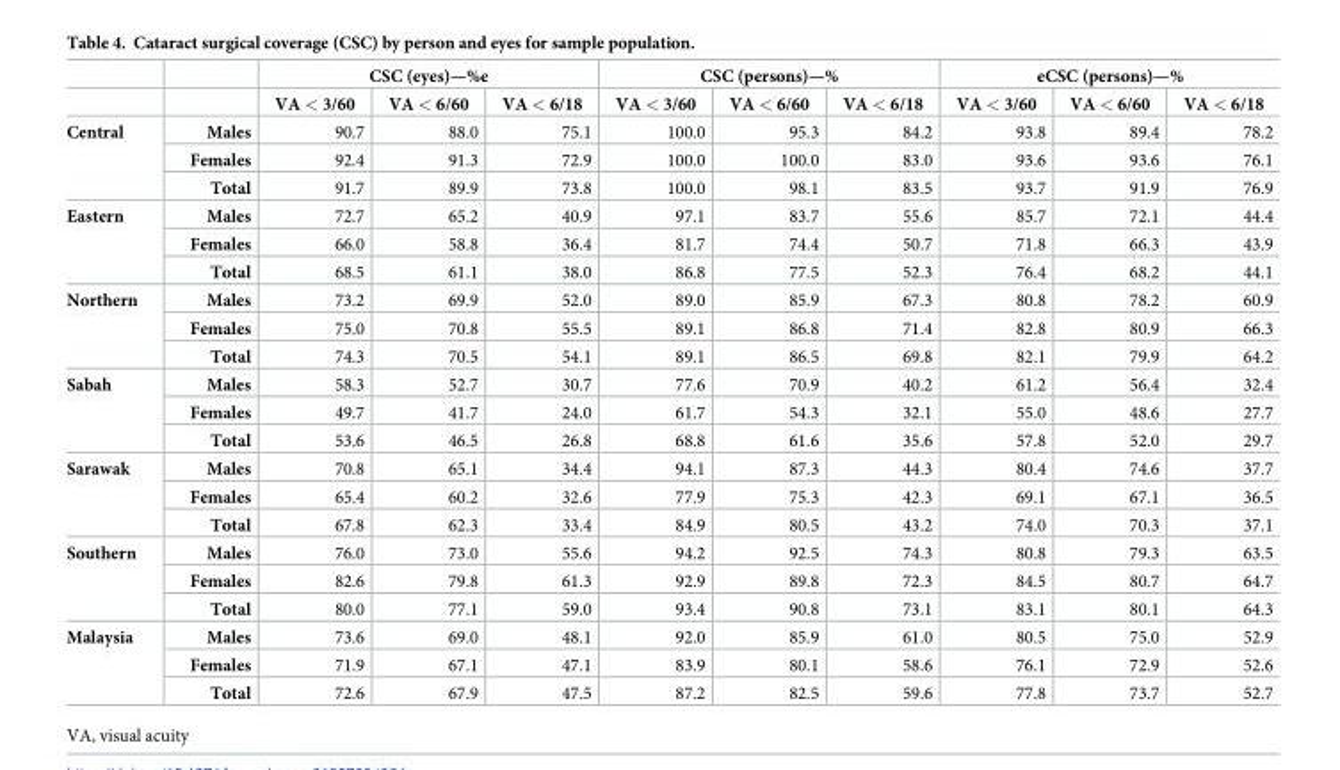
<table><thead><tr><td rowspan="2"></td><td rowspan="2"></td><td colspan="3">CSC (eyes)—%e</td><td colspan="3">CSC (persons)—%</td><td colspan="3">eCSC (persons)—%</td></tr><tr><td>VA &lt; 3/60</td><td>VA &lt; 6/60</td><td>VA &lt; 6/18</td><td>VA &lt; 3/60</td><td>VA &lt; 6/60</td><td>VA &lt; 6/18</td><td>VA &lt; 3/60</td><td>VA &lt; 6/60</td><td>VA &lt; 6/18</td></tr></thead><tbody><tr><td rowspan="3">Central</td><td>Males</td><td>90.7</td><td>88.0</td><td>75.1</td><td>100.0</td><td>95.3</td><td>84.2</td><td>93.8</td><td>89.4</td><td>78.2</td></tr><tr><td>Females</td><td>92.4</td><td>91.3</td><td>72.9</td><td>100.0</td><td>100.0</td><td>83.0</td><td>93.6</td><td>93.6</td><td>76.1</td></tr><tr><td>Total</td><td>91.7</td><td>89.9</td><td>73.8</td><td>100.0</td><td>98.1</td><td>83.5</td><td>93.7</td><td>91.9</td><td>76.9</td></tr><tr><td rowspan="3">Eastern</td><td>Males</td><td>72.7</td><td>65.2</td><td>40.9</td><td>97.1</td><td>83.7</td><td>55.6</td><td>85.7</td><td>72.1</td><td>44.4</td></tr><tr><td>Females</td><td>66.0</td><td>58.8</td><td>36.4</td><td>81.7</td><td>74.4</td><td>50.7</td><td>71.8</td><td>66.3</td><td>43.9</td></tr><tr><td>Total</td><td>68.5</td><td>61.1</td><td>38.0</td><td>86.8</td><td>77.5</td><td>52.3</td><td>76.4</td><td>68.2</td><td>44.1</td></tr><tr><td rowspan="3">Northern</td><td>Males</td><td>73.2</td><td>69.9</td><td>52.0</td><td>89.0</td><td>85.9</td><td>67.3</td><td>80.8</td><td>78.2</td><td>60.9</td></tr><tr><td>Females</td><td>75.0</td><td>70.8</td><td>55.5</td><td>89.1</td><td>86.8</td><td>71.4</td><td>82.8</td><td>80.9</td><td>66.3</td></tr><tr><td>Total</td><td>74.3</td><td>70.5</td><td>54.1</td><td>89.1</td><td>86.5</td><td>69.8</td><td>82.1</td><td>79.9</td><td>64.2</td></tr><tr><td rowspan="3">Sabah</td><td>Males</td><td>58.3</td><td>52.7</td><td>30.7</td><td>77.6</td><td>70.9</td><td>40.2</td><td>61.2</td><td>56.4</td><td>32.4</td></tr><tr><td>Females</td><td>49.7</td><td>41.7</td><td>24.0</td><td>61.7</td><td>54.3</td><td>32.1</td><td>55.0</td><td>48.6</td><td>27.7</td></tr><tr><td>Total</td><td>53.6</td><td>46.5</td><td>26.8</td><td>68.8</td><td>61.6</td><td>35.6</td><td>57.8</td><td>52.0</td><td>29.7</td></tr><tr><td rowspan="3">Sarawak</td><td>Males</td><td>70.8</td><td>65.1</td><td>34.4</td><td>94.1</td><td>87.3</td><td>44.3</td><td>80.4</td><td>74.6</td><td>37.7</td></tr><tr><td>Females</td><td>65.4</td><td>60.2</td><td>32.6</td><td>77.9</td><td>75.3</td><td>42.3</td><td>69.1</td><td>67.1</td><td>36.5</td></tr><tr><td>Total</td><td>67.8</td><td>62.3</td><td>33.4</td><td>84.9</td><td>80.5</td><td>43.2</td><td>74.0</td><td>70.3</td><td>37.1</td></tr><tr><td rowspan="3">Southern</td><td>Males</td><td>76.0</td><td>73.0</td><td>55.6</td><td>94.2</td><td>92.5</td><td>74.3</td><td>80.8</td><td>79.3</td><td>63.5</td></tr><tr><td>Females</td><td>82.6</td><td>79.8</td><td>61.3</td><td>92.9</td><td>89.8</td><td>72.3</td><td>84.5</td><td>80.7</td><td>64.7</td></tr><tr><td>Total</td><td>80.0</td><td>77.1</td><td>59.0</td><td>93.4</td><td>90.8</td><td>73.1</td><td>83.1</td><td>80.1</td><td>64.3</td></tr><tr><td rowspan="3">Malaysia</td><td>Males</td><td>73.6</td><td>69.0</td><td>48.1</td><td>92.0</td><td>85.9</td><td>61.0</td><td>80.5</td><td>75.0</td><td>52.9</td></tr><tr><td>Females</td><td>71.9</td><td>67.1</td><td>47.1</td><td>83.9</td><td>80.1</td><td>58.6</td><td>76.1</td><td>72.9</td><td>52.6</td></tr><tr><td>Total</td><td>72.6</td><td>67.9</td><td>47.5</td><td>87.2</td><td>82.5</td><td>59.6</td><td>77.8</td><td>73.7</td><td>52.7</td></tr></tbody></table>